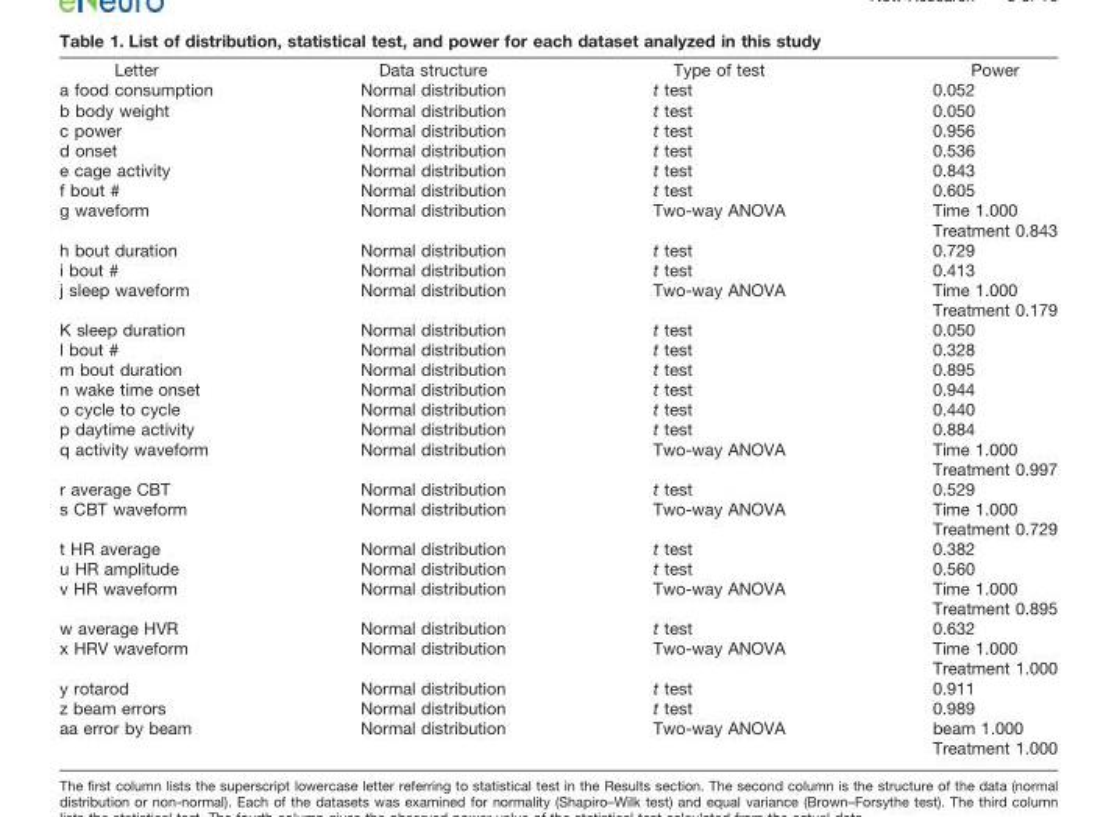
<table><thead><tr><td>Letter</td><td>Data structure</td><td>Type of test</td><td>Power</td></tr></thead><tbody><tr><td>a food consumption</td><td>Normal distribution</td><td>t test</td><td>0.052</td></tr><tr><td>b body weight</td><td>Normal distribution</td><td>t test</td><td>0.050</td></tr><tr><td>c power</td><td>Normal distribution</td><td>t test</td><td>0.956</td></tr><tr><td>d onset</td><td>Normal distribution</td><td>t test</td><td>0.536</td></tr><tr><td>e cage activity</td><td>Normal distribution</td><td>t test</td><td>0.843</td></tr><tr><td>f bout #</td><td>Normal distribution</td><td>t test</td><td>0.605</td></tr><tr><td rowspan="2">g waveform</td><td>Normal distribution</td><td>Two-way ANOVA</td><td>Time 1.000</td></tr><tr><td></td><td></td><td>Treatment 0.843</td></tr><tr><td>h bout duration</td><td>Normal distribution</td><td>t test</td><td>0.729</td></tr><tr><td>i bout #</td><td>Normal distribution</td><td>t test</td><td>0.413</td></tr><tr><td rowspan="2">j sleep waveform</td><td>Normal distribution</td><td>Two-way ANOVA</td><td>Time 1.000</td></tr><tr><td></td><td></td><td>Treatment 0.179</td></tr><tr><td>K sleep duration</td><td>Normal distribution</td><td>t test</td><td>0.050</td></tr><tr><td>l bout #</td><td>Normal distribution</td><td>t test</td><td>0.328</td></tr><tr><td>m bout duration</td><td>Normal distribution</td><td>t test</td><td>0.895</td></tr><tr><td>n wake time onset</td><td>Normal distribution</td><td>t test</td><td>0.944</td></tr><tr><td>o cycle to cycle</td><td>Normal distribution</td><td>t test</td><td>0.440</td></tr><tr><td>p daytime activity</td><td>Normal distribution</td><td>t test</td><td>0.884</td></tr><tr><td rowspan="2">q activity waveform</td><td>Normal distribution</td><td>Two-way ANOVA</td><td>Time 1.000</td></tr><tr><td></td><td></td><td>Treatment 0.997</td></tr><tr><td>r average CBT</td><td>Normal distribution</td><td>t test</td><td>0.529</td></tr><tr><td rowspan="2">s CBT waveform</td><td>Normal distribution</td><td>Two-way ANOVA</td><td>Time 1.000</td></tr><tr><td></td><td></td><td>Treatment 0.729</td></tr><tr><td>t HR average</td><td>Normal distribution</td><td>t test</td><td>0.382</td></tr><tr><td>u HR amplitude</td><td>Normal distribution</td><td>t test</td><td>0.560</td></tr><tr><td rowspan="2">v HR waveform</td><td>Normal distribution</td><td>Two-way ANOVA</td><td>Time 1.000</td></tr><tr><td></td><td></td><td>Treatment 0.895</td></tr><tr><td>w average HVR</td><td>Normal distribution</td><td>t test</td><td>0.632</td></tr><tr><td rowspan="2">x HRV waveform</td><td>Normal distribution</td><td>Two-way ANOVA</td><td>Time 1.000</td></tr><tr><td></td><td></td><td>Treatment 1.000</td></tr><tr><td>y rotarod</td><td>Normal distribution</td><td>t test</td><td>0.911</td></tr><tr><td>z beam errors</td><td>Normal distribution</td><td>t test</td><td>0.989</td></tr><tr><td rowspan="2">aa error by beam</td><td>Normal distribution</td><td>Two-way ANOVA</td><td>beam 1.000</td></tr><tr><td></td><td></td><td>Treatment 1.000</td></tr></tbody></table>